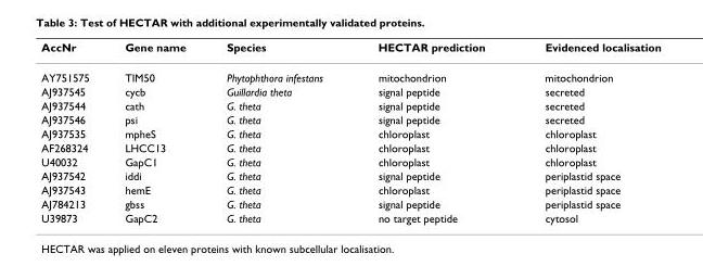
<table><thead><tr><td>AccNr</td><td>Gene name</td><td>Species</td><td>HECTAR prediction</td><td>Evidenced localisation</td></tr></thead><tbody><tr><td>AY751575</td><td>TIM50</td><td>Phytophthora infestans</td><td>mitochondrion</td><td>mitochondrion</td></tr><tr><td>AJ937545</td><td>cycb</td><td>Guillardia theta</td><td>signal peptide</td><td>secreted</td></tr><tr><td>AJ937544</td><td>cath</td><td>G. theta</td><td>signal peptide</td><td>secreted</td></tr><tr><td>AJ937546</td><td>psi</td><td>G. theta</td><td>signal peptide</td><td>secreted</td></tr><tr><td>AJ937535</td><td>mpheS</td><td>G. theta</td><td>chloroplast</td><td>chloroplast</td></tr><tr><td>AF268324</td><td>LHCC13</td><td>G. theta</td><td>chloroplast</td><td>chloroplast</td></tr><tr><td>U40032</td><td>GapC1</td><td>G. theta</td><td>chloroplast</td><td>chloroplast</td></tr><tr><td>AJ937542</td><td>iddi</td><td>G. theta</td><td>signal peptide</td><td>periplastid space</td></tr><tr><td>AJ937543</td><td>hemE</td><td>G. theta</td><td>chloroplast</td><td>periplastid space</td></tr><tr><td>AJ784213</td><td>gbss</td><td>G. theta</td><td>signal peptide</td><td>periplastid space</td></tr><tr><td>U39873</td><td>GapC2</td><td>G. theta</td><td>no target peptide</td><td>cytosol</td></tr></tbody></table>